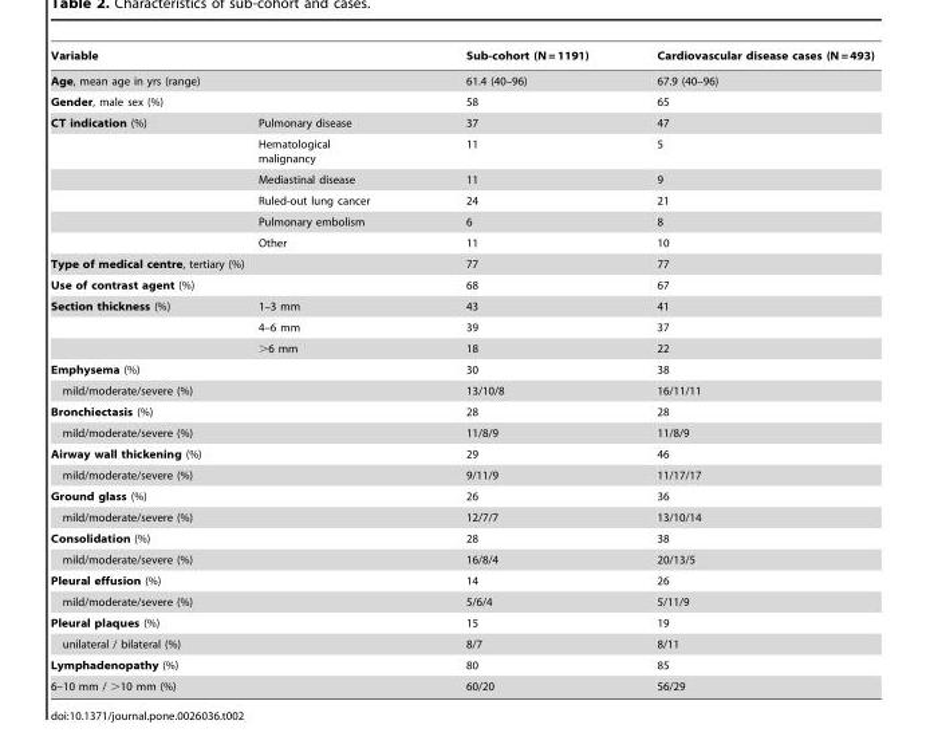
<table><thead><tr><td rowspan="3" colspan="2">Variable Age, mean age in yrs (range) Gender, male sex (%)</td><td rowspan="4">Sub-cohort (N = 1191) 61.4 (40–96) 58 37</td><td rowspan="4">Cardiovascular disease cases (N = 493) 67.9 (40–96) 65 47</td></tr><tr></tr><tr></tr><tr><td>CT indication (%)</td><td>Pulmonary disease</td></tr></thead><tbody><tr><td></td><td>Hematological malignancy</td><td>11</td><td>5</td></tr><tr><td></td><td>Mediastinal disease</td><td>11</td><td>9</td></tr><tr><td></td><td>Ruled-out lung cancer</td><td>24</td><td>21</td></tr><tr><td></td><td>Pulmonary embolism</td><td>6</td><td>8</td></tr><tr><td></td><td>Other</td><td>11</td><td>10</td></tr><tr><td colspan="2">Type of medical centre, tertiary (%)</td><td>77</td><td>77</td></tr><tr><td colspan="2">Use of contrast agent (%)</td><td>68</td><td>67</td></tr><tr><td rowspan="3">Section thickness (%)</td><td>1–3 mm</td><td>43</td><td>41</td></tr><tr><td>4–6 mm</td><td>39</td><td>37</td></tr><tr><td>&gt;6 mm</td><td>18</td><td>22</td></tr><tr><td colspan="2">Emphysema (%)</td><td>30</td><td>38</td></tr><tr><td colspan="2">mild/moderate/severe (%)</td><td>13/10/8</td><td>16/11/11</td></tr><tr><td colspan="2">Bronchiectasis (%)</td><td>28</td><td>28</td></tr><tr><td colspan="2">mild/moderate/severe (%)</td><td>11/8/9</td><td>11/8/9</td></tr><tr><td colspan="2">Airway wall thickening (%)</td><td>29</td><td>46</td></tr><tr><td colspan="2">mild/moderate/severe (%)</td><td>9/11/9</td><td>11/17/17</td></tr><tr><td colspan="2">Ground glass (%)</td><td>26</td><td>36</td></tr><tr><td colspan="2">mild/moderate/severe (%)</td><td>12/7/7</td><td>13/10/14</td></tr><tr><td colspan="2">Consolidation (%)</td><td>28</td><td>38</td></tr><tr><td colspan="2">mild/moderate/severe (%)</td><td>16/8/4</td><td>20/13/5</td></tr><tr><td colspan="2">Pleural effusion (%)</td><td>14</td><td>26</td></tr><tr><td colspan="2">mild/moderate/severe (%)</td><td>5/6/4</td><td>5/11/9</td></tr><tr><td colspan="2">Pleural plaques (%)</td><td>15</td><td>19</td></tr><tr><td colspan="2">unilateral / bilateral (%)</td><td>8/7</td><td>8/11</td></tr><tr><td colspan="2">Lymphadenopathy (%)</td><td>80</td><td>85</td></tr><tr><td colspan="2">6–10 mm / &gt;10 mm (%)</td><td>60/20</td><td>56/29</td></tr></tbody></table>